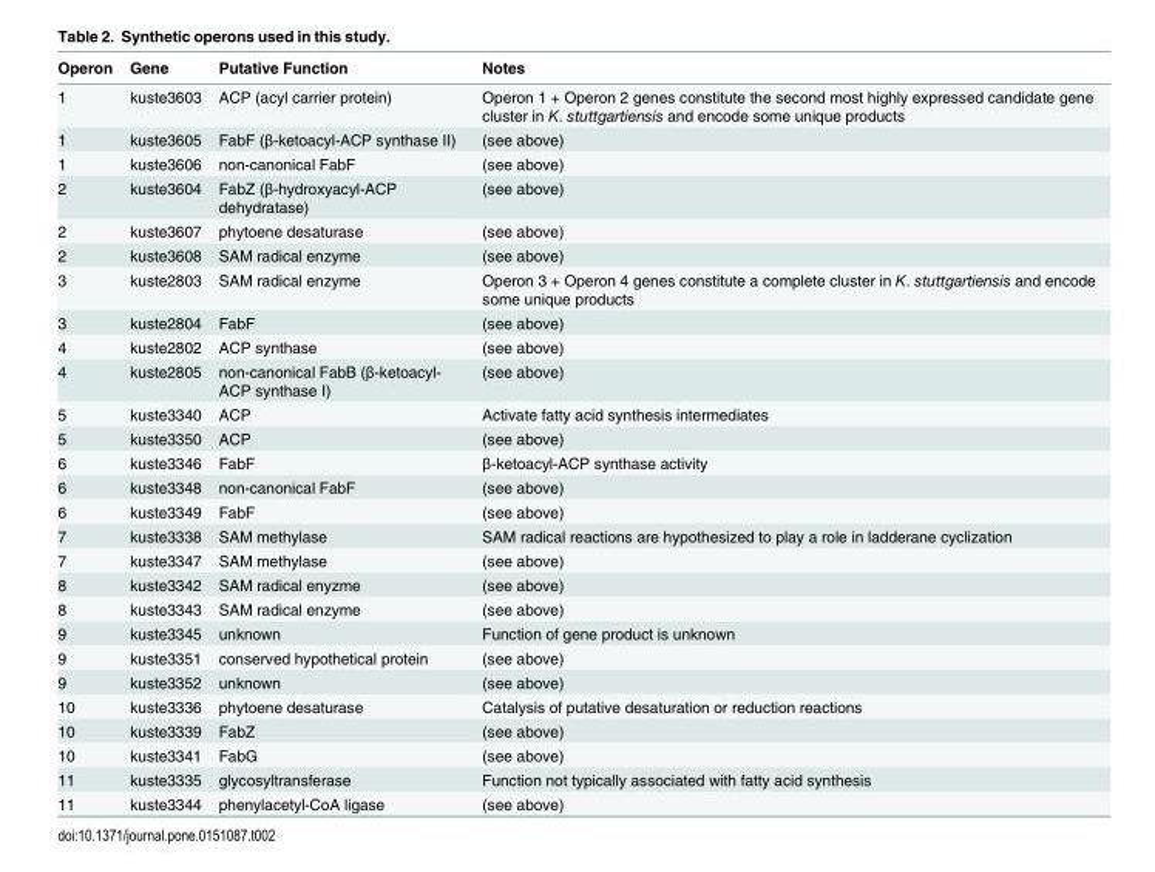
<table><thead><tr><td>Operon</td><td>Gene</td><td>Putative Function</td><td>Notes</td></tr></thead><tbody><tr><td>1</td><td>kuste3603</td><td>ACP (acyl carrier protein)</td><td>Operon 1 + Operon 2 genes constitute the second most highly expressed candidate gene cluster in K. stuttgartiensis and encode some unique products</td></tr><tr><td>1</td><td>kuste3605</td><td>FabF (β-ketoacyl-ACP synthase II)</td><td>(see above)</td></tr><tr><td>1</td><td>kuste3606</td><td>non-canonical FabF</td><td>(see above)</td></tr><tr><td>2</td><td>kuste3604</td><td>FabZ (β-hydroxyacyl-ACP dehydratase)</td><td>(see above)</td></tr><tr><td>2</td><td>kuste3607</td><td>phytoene desaturase</td><td>(see above)</td></tr><tr><td>2</td><td>kuste3608</td><td>SAM radical enzyme</td><td>(see above)</td></tr><tr><td>3</td><td>kuste2803</td><td>SAM radical enzyme</td><td>Operon 3 + Operon 4 genes constitute a complete cluster in K. stuttgartiensis and encode some unique products</td></tr><tr><td>3</td><td>kuste2804</td><td>FabF</td><td>(see above)</td></tr><tr><td>4</td><td>kuste2802</td><td>ACP synthase</td><td>(see above)</td></tr><tr><td>4</td><td>kuste2805</td><td>non-canonical FabB (β-ketoacyl- ACP synthase I)</td><td>(see above)</td></tr><tr><td>5</td><td>kuste3340</td><td>ACP</td><td>Activate fatty acid synthesis intermediates</td></tr><tr><td>5</td><td>kuste3350</td><td>ACP</td><td>(see above)</td></tr><tr><td>6</td><td>kuste3346</td><td>FabF</td><td>β-ketoacyl-ACP synthase activity</td></tr><tr><td>6</td><td>kuste3348</td><td>non-canonical FabF</td><td>(see above)</td></tr><tr><td>6</td><td>kuste3349</td><td>FabF</td><td>(see above)</td></tr><tr><td>7</td><td>kuste3338</td><td>SAM methylase</td><td>SAM radical reactions are hypothesized to play a role in ladderane cyclization</td></tr><tr><td>7</td><td>kuste3347</td><td>SAM methylase</td><td>(see above)</td></tr><tr><td>8</td><td>kuste3342</td><td>SAM radical enyzme</td><td>(see above)</td></tr><tr><td>8</td><td>kuste3343</td><td>SAM radical enzyme</td><td>(see above)</td></tr><tr><td>9</td><td>kuste3345</td><td>unknown</td><td>Function of gene product is unknown</td></tr><tr><td>9</td><td>kuste3351</td><td>conserved hypothetical protein</td><td>(see above)</td></tr><tr><td>9</td><td>kuste3352</td><td>unknown</td><td>(see above)</td></tr><tr><td>10</td><td>kuste3336</td><td>phytoene desaturase</td><td>Catalysis of putative desaturation or reduction reactions</td></tr><tr><td>10</td><td>kuste3339</td><td>FabZ</td><td>(see above)</td></tr><tr><td>10</td><td>kuste3341</td><td>FabG</td><td>(see above)</td></tr><tr><td>11</td><td>kuste3335</td><td>glycosyltransferase</td><td>Function not typically associated with fatty acid synthesis</td></tr><tr><td>11</td><td>kuste3344</td><td>phenylacetyl-CoA ligase</td><td>(see above)</td></tr></tbody></table>